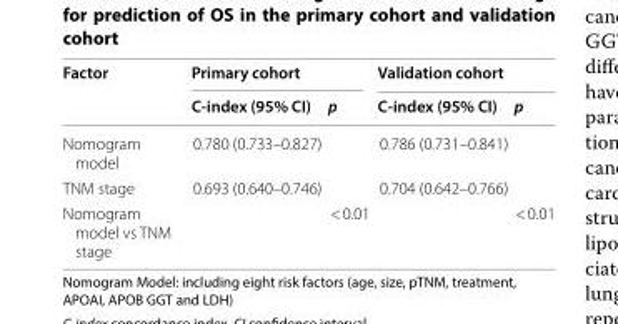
<table><thead><tr><td rowspan="2">Factor</td><td colspan="2">Primary cohort</td><td colspan="2">Validation cohort</td></tr><tr><td>C‑index (95% CI)</td><td>p</td><td>C‑index (95% CI)</td><td>p</td></tr></thead><tbody><tr><td>Nomogram model</td><td>0.780 (0.733–0.827)</td><td></td><td>0.786 (0.731–0.841)</td><td></td></tr><tr><td>TNM stage</td><td>0.693 (0.640–0.746)</td><td></td><td>0.704 (0.642–0.766)</td><td></td></tr><tr><td>Nomogram model vs TNM stage</td><td></td><td>&lt; 0.01</td><td></td><td>&lt; 0.01</td></tr></tbody></table>